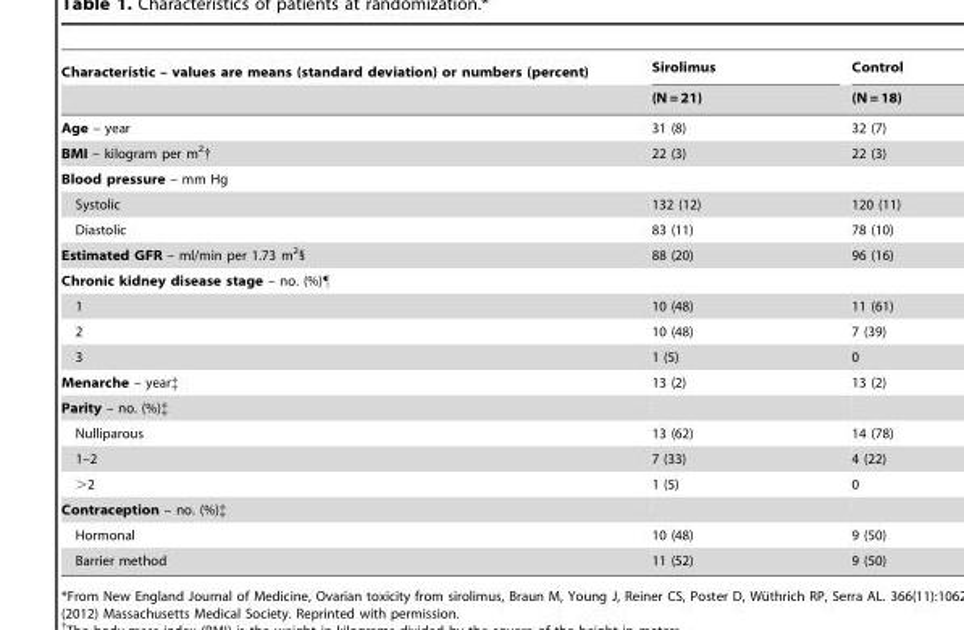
<table><thead><tr><td rowspan="2">Characteristic – values are means (standard deviation) or numbers (percent)</td><td rowspan="2">Sirolimus (N = 21)</td><td rowspan="2">Control (N = 18)</td></tr><tr></tr></thead><tbody><tr><td>Age – year</td><td>31 (8)</td><td>32 (7)</td></tr><tr><td>BMI – kilogram per m<sup>2</sup>†</td><td>22 (3)</td><td>22 (3)</td></tr><tr><td colspan="3">Blood pressure – mm Hg</td></tr><tr><td>Systolic</td><td>132 (12)</td><td>120 (11)</td></tr><tr><td>Diastolic</td><td>83 (11)</td><td>78 (10)</td></tr><tr><td>Estimated GFR – ml/min per 1.73 m<sup>2</sup>§</td><td>88 (20)</td><td>96 (16)</td></tr><tr><td colspan="3">Chronic kidney disease stage – no. (%)¶</td></tr><tr><td>1</td><td>10 (48)</td><td>11 (61)</td></tr><tr><td>2</td><td>10 (48)</td><td>7 (39)</td></tr><tr><td>3</td><td>1 (5)</td><td>0</td></tr><tr><td>Menarche – year‡</td><td>13 (2)</td><td>13 (2)</td></tr><tr><td colspan="3">Parity – no. (%)‡</td></tr><tr><td>Nulliparous</td><td>13 (62)</td><td>14 (78)</td></tr><tr><td>1–2</td><td>7 (33)</td><td>4 (22)</td></tr><tr><td>&gt;2</td><td>1 (5)</td><td>0</td></tr><tr><td colspan="3">Contraception – no. (%)‡</td></tr><tr><td>Hormonal</td><td>10 (48)</td><td>9 (50)</td></tr><tr><td>Barrier method</td><td>11 (52)</td><td>9 (50)</td></tr></tbody></table>